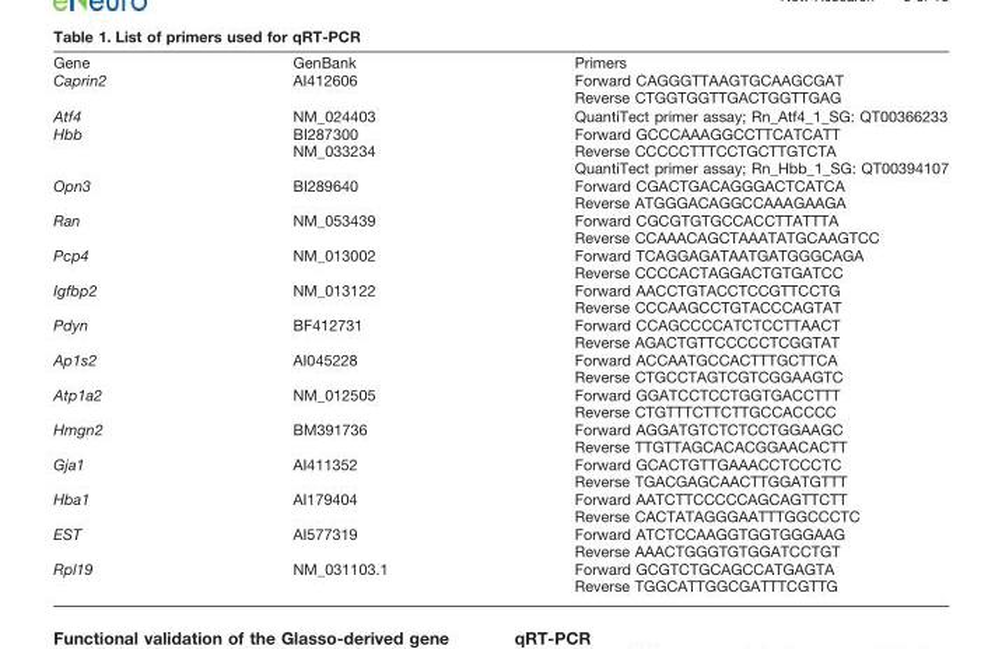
<table><thead><tr><td>Gene</td><td>GenBank</td><td>Primers</td></tr></thead><tbody><tr><td>Caprin2</td><td>AI412606</td><td>Forward CAGGGTTAAGTGCAAGCGAT Reverse CTGGTGGTTGACTGGTTGAG</td></tr><tr><td>Atf4</td><td>NM_024403</td><td>QuantiTect primer assay; Rn_Atf4_1_SG: QT00366233</td></tr><tr><td>Hbb</td><td>BI287300 NM_033234</td><td>Forward GCCCAAAGGCCTTCATCATT Reverse CCCCCTTTCCTGCTTGTCTA QuantiTect primer assay; Rn_Hbb_1_SG: QT00394107</td></tr><tr><td>Opn3</td><td>BI289640</td><td>Forward CGACTGACAGGGACTCATCA Reverse ATGGGACAGGCCAAAGAAGA</td></tr><tr><td>Ran</td><td>NM_053439</td><td>Forward CGCGTGTGCCACCTTATTTA Reverse CCAAACAGCTAAATATGCAAGTCC</td></tr><tr><td>Pcp4</td><td>NM_013002</td><td>Forward TCAGGAGATAATGATGGGCAGA Reverse CCCCACTAGGACTGTGATCC</td></tr><tr><td>Igfbp2</td><td>NM_013122</td><td>Forward AACCTGTACCTCCGTTCCTG Reverse CCCAAGCCTGTACCCAGTAT</td></tr><tr><td>Pdyn</td><td>BF412731</td><td>Forward CCAGCCCCATCTCCTTAACT Reverse AGACTGTTCCCCCTCGGTAT</td></tr><tr><td>Ap1s2</td><td>AI045228</td><td>Forward ACCAATGCCACTTTGCTTCA Reverse CTGCCTAGTCGTCGGAAGTC</td></tr><tr><td>Atp1a2</td><td>NM_012505</td><td>Forward GGATCCTCCTGGTGACCTTT Reverse CTGTTTCTTCTTGCCACCCC</td></tr><tr><td>Hmgn2</td><td>BM391736</td><td>Forward AGGATGTCTCTCCTGGAAGC Reverse TTGTTAGCACACGGAACACTT</td></tr><tr><td>Gja1</td><td>AI411352</td><td>Forward GCACTGTTGAAACCTCCCTC Reverse TGACGAGCAACTTGGATGTTT</td></tr><tr><td>Hba1</td><td>AI179404</td><td>Forward AATCTTCCCCCAGCAGTTCTT Reverse CACTATAGGGAATTTGGCCCTC</td></tr><tr><td>EST</td><td>AI577319</td><td>Forward ATCTCCAAGGTGGTGGGAAG Reverse AAACTGGGTGTGGATCCTGT</td></tr><tr><td>Rpl19</td><td>NM_031103.1</td><td>Forward GCGTCTGCAGCCATGAGTA Reverse TGGCATTGGCGATTTCGTTG</td></tr></tbody></table>